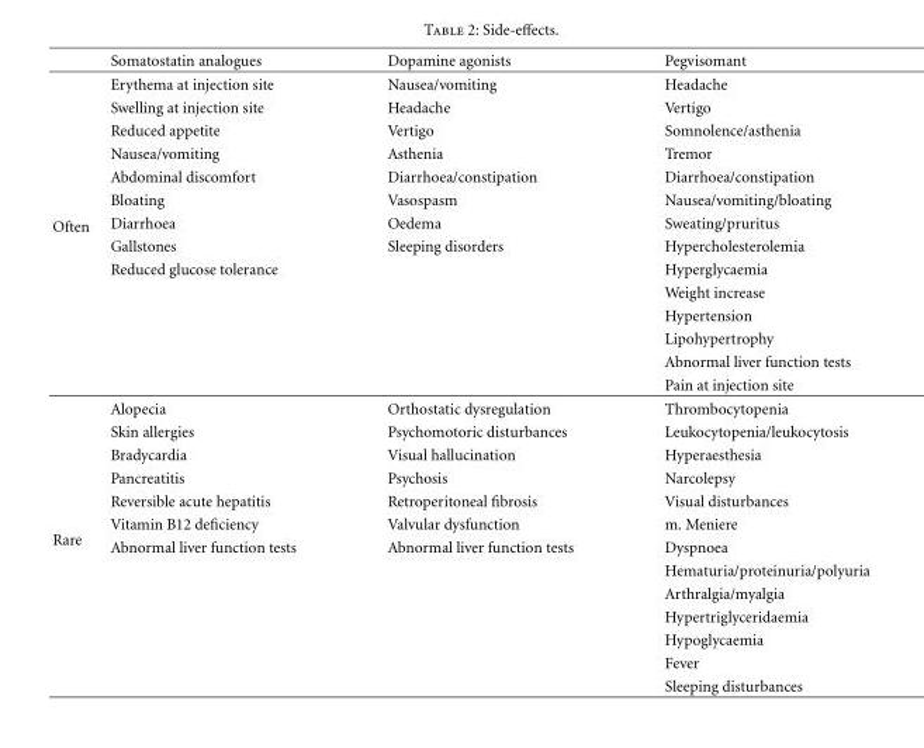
<table><thead><tr><td></td><td>Somatostatin analogues</td><td>Dopamine agonists</td><td>Pegvisomant</td></tr></thead><tbody><tr><td rowspan="14">Often</td><td>Erythema at injection site</td><td>Nausea/vomiting</td><td>Headache</td></tr><tr><td>Swelling at injection site</td><td>Headache</td><td>Vertigo</td></tr><tr><td>Reduced appetite</td><td>Vertigo</td><td>Somnolence/asthenia</td></tr><tr><td>Nausea/vomiting</td><td>Asthenia</td><td>Tremor</td></tr><tr><td>Abdominal discomfort</td><td>Diarrhoea/constipation</td><td>Diarrhoea/constipation</td></tr><tr><td>Bloating</td><td>Vasospasm</td><td>Nausea/vomiting/bloating</td></tr><tr><td>Diarrhoea</td><td>Oedema</td><td>Sweating/pruritus</td></tr><tr><td>Gallstones</td><td>Sleeping disorders</td><td>Hypercholesterolemia</td></tr><tr><td>Reduced glucose tolerance</td><td></td><td>Hyperglycaemia</td></tr><tr><td></td><td></td><td>Weight increase</td></tr><tr><td></td><td></td><td>Hypertension</td></tr><tr><td></td><td></td><td>Lipohypertrophy</td></tr><tr><td></td><td></td><td>Abnormal liver function tests</td></tr><tr><td></td><td></td><td>Pain at injection site</td></tr><tr><td rowspan="13">Rare</td><td>Alopecia</td><td>Orthostatic dysregulation</td><td>Thrombocytopenia</td></tr><tr><td>Skin allergies</td><td>Psychomotoric disturbances</td><td>Leukocytopenia/leukocytosis</td></tr><tr><td>Bradycardia</td><td>Visual hallucination</td><td>Hyperaesthesia</td></tr><tr><td>Pancreatitis</td><td>Psychosis</td><td>Narcolepsy</td></tr><tr><td>Reversible acute hepatitis</td><td>Retroperitoneal fibrosis</td><td>Visual disturbances</td></tr><tr><td>Vitamin B12 deficiency</td><td>Valvular dysfunction</td><td>m. Meniere</td></tr><tr><td>Abnormal liver function tests</td><td>Abnormal liver function tests</td><td>Dyspnoea</td></tr><tr><td></td><td></td><td>Hematuria/proteinuria/polyuria</td></tr><tr><td></td><td></td><td>Arthralgia/myalgia</td></tr><tr><td></td><td></td><td>Hypertriglyceridaemia</td></tr><tr><td></td><td></td><td>Hypoglycaemia</td></tr><tr><td></td><td></td><td>Fever</td></tr><tr><td></td><td></td><td>Sleeping disturbances</td></tr></tbody></table>